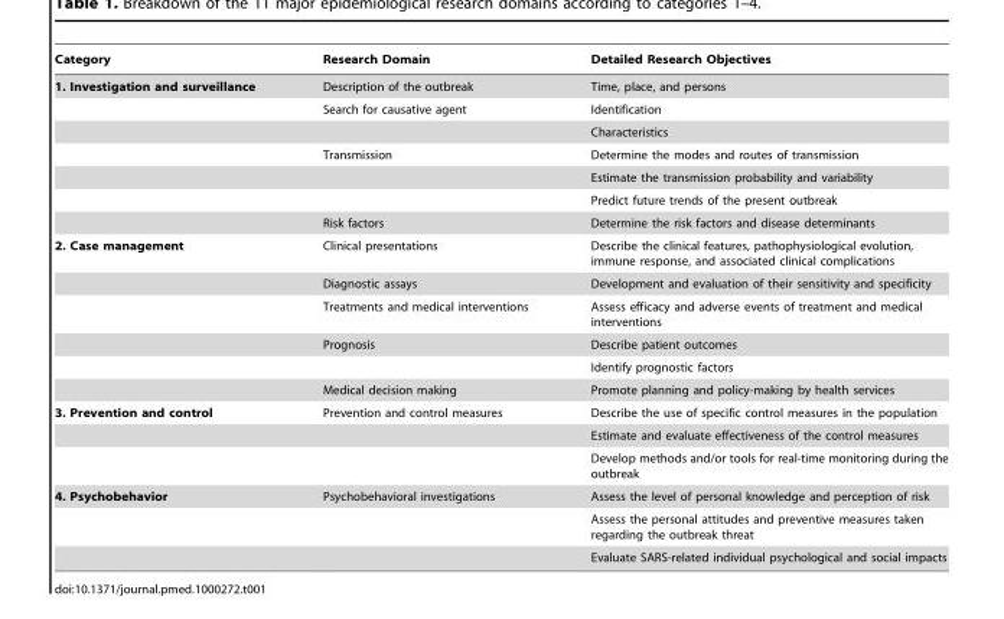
<table><thead><tr><td>Category</td><td>Research Domain</td><td>Detailed Research Objectives</td></tr></thead><tbody><tr><td rowspan="7">1. Investigation and surveillance</td><td>Description of the outbreak</td><td>Time, place, and persons</td></tr><tr><td>Search for causative agent</td><td>Identification</td></tr><tr><td></td><td>Characteristics</td></tr><tr><td>Transmission</td><td>Determine the modes and routes of transmission</td></tr><tr><td></td><td>Estimate the transmission probability and variability</td></tr><tr><td></td><td>Predict future trends of the present outbreak</td></tr><tr><td>Risk factors</td><td>Determine the risk factors and disease determinants</td></tr><tr><td rowspan="6">2. Case management</td><td>Clinical presentations</td><td>Describe the clinical features, pathophysiological evolution, immune response, and associated clinical complications</td></tr><tr><td>Diagnostic assays</td><td>Development and evaluation of their sensitivity and specificity</td></tr><tr><td>Treatments and medical interventions</td><td>Assess efficacy and adverse events of treatment and medical interventions</td></tr><tr><td>Prognosis</td><td>Describe patient outcomes</td></tr><tr><td></td><td>Identify prognostic factors</td></tr><tr><td>Medical decision making</td><td>Promote planning and policy-making by health services</td></tr><tr><td rowspan="3">3. Prevention and control</td><td>Prevention and control measures</td><td>Describe the use of specific control measures in the population</td></tr><tr><td></td><td>Estimate and evaluate effectiveness of the control measures</td></tr><tr><td></td><td>Develop methods and/or tools for real-time monitoring during the outbreak</td></tr><tr><td rowspan="3">4. Psychobehavior</td><td>Psychobehavioral investigations</td><td>Assess the level of personal knowledge and perception of risk</td></tr><tr><td></td><td>Assess the personal attitudes and preventive measures taken regarding the outbreak threat</td></tr><tr><td></td><td>Evaluate SARS-related individual psychological and social impacts</td></tr></tbody></table>